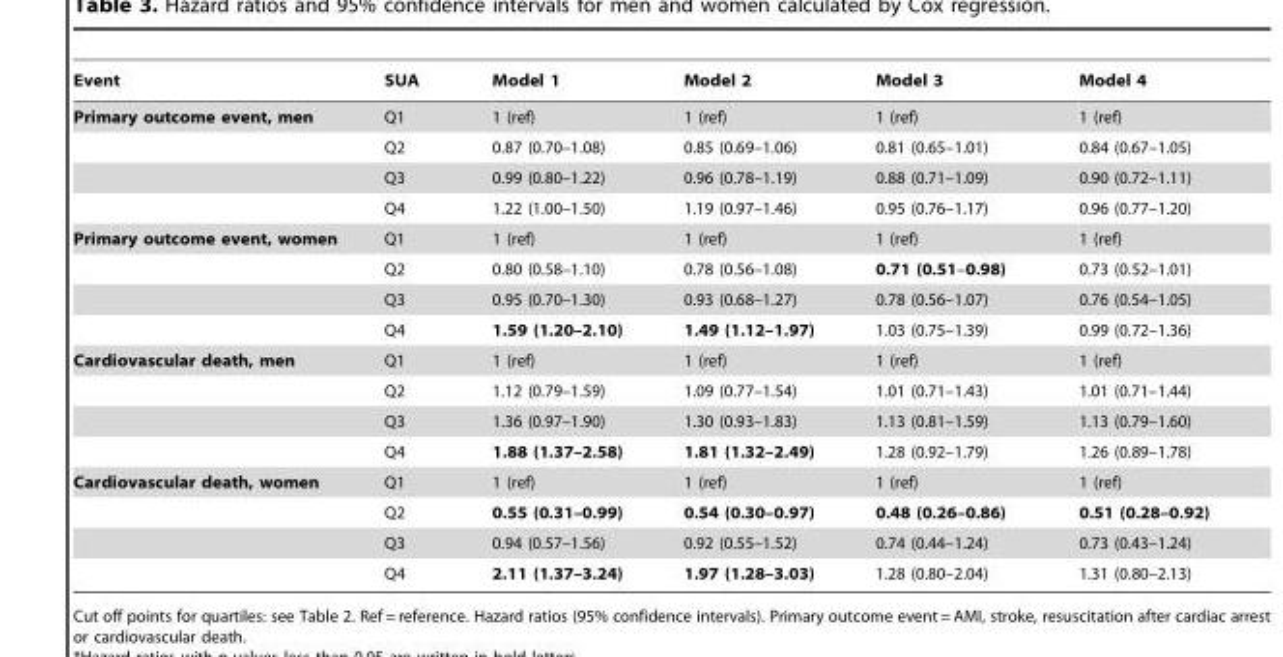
<table><thead><tr><td>Event</td><td>SUA</td><td>Model 1</td><td>Model 2</td><td>Model 3</td><td>Model 4</td></tr></thead><tbody><tr><td rowspan="4">Primary outcome event, men</td><td>Q1</td><td>1 (ref)</td><td>1 (ref)</td><td>1 (ref)</td><td>1 (ref)</td></tr><tr><td>Q2</td><td>0.87 (0.70–1.08)</td><td>0.85 (0.69–1.06)</td><td>0.81 (0.65–1.01)</td><td>0.84 (0.67–1.05)</td></tr><tr><td>Q3</td><td>0.99 (0.80–1.22)</td><td>0.96 (0.78–1.19)</td><td>0.88 (0.71–1.09)</td><td>0.90 (0.72–1.11)</td></tr><tr><td>Q4</td><td>1.22 (1.00–1.50)</td><td>1.19 (0.97–1.46)</td><td>0.95 (0.76–1.17)</td><td>0.96 (0.77–1.20)</td></tr><tr><td rowspan="4">Primary outcome event, women</td><td>Q1</td><td>1 (ref)</td><td>1 (ref)</td><td>1 (ref)</td><td>1 (ref)</td></tr><tr><td>Q2</td><td>0.80 (0.58–1.10)</td><td>0.78 (0.56–1.08)</td><td>0.71 (0.51–0.98)</td><td>0.73 (0.52–1.01)</td></tr><tr><td>Q3</td><td>0.95 (0.70–1.30)</td><td>0.93 (0.68–1.27)</td><td>0.78 (0.56–1.07)</td><td>0.76 (0.54–1.05)</td></tr><tr><td>Q4</td><td>1.59 (1.20–2.10)</td><td>1.49 (1.12–1.97)</td><td>1.03 (0.75–1.39)</td><td>0.99 (0.72–1.36)</td></tr><tr><td rowspan="4">Cardiovascular death, men</td><td>Q1</td><td>1 (ref)</td><td>1 (ref)</td><td>1 (ref)</td><td>1 (ref)</td></tr><tr><td>Q2</td><td>1.12 (0.79–1.59)</td><td>1.09 (0.77–1.54)</td><td>1.01 (0.71–1.43)</td><td>1.01 (0.71–1.44)</td></tr><tr><td>Q3</td><td>1.36 (0.97–1.90)</td><td>1.30 (0.93–1.83)</td><td>1.13 (0.81–1.59)</td><td>1.13 (0.79–1.60)</td></tr><tr><td>Q4</td><td>1.88 (1.37–2.58)</td><td>1.81 (1.32–2.49)</td><td>1.28 (0.92–1.79)</td><td>1.26 (0.89–1.78)</td></tr><tr><td rowspan="4">Cardiovascular death, women</td><td>Q1</td><td>1 (ref)</td><td>1 (ref)</td><td>1 (ref)</td><td>1 (ref)</td></tr><tr><td>Q2</td><td>0.55 (0.31–0.99)</td><td>0.54 (0.30–0.97)</td><td>0.48 (0.26–0.86)</td><td>0.51 (0.28–0.92)</td></tr><tr><td>Q3</td><td>0.94 (0.57–1.56)</td><td>0.92 (0.55–1.52)</td><td>0.74 (0.44–1.24)</td><td>0.73 (0.43–1.24)</td></tr><tr><td>Q4</td><td>2.11 (1.37–3.24)</td><td>1.97 (1.28–3.03)</td><td>1.28 (0.80–2.04)</td><td>1.31 (0.80–2.13)</td></tr></tbody></table>